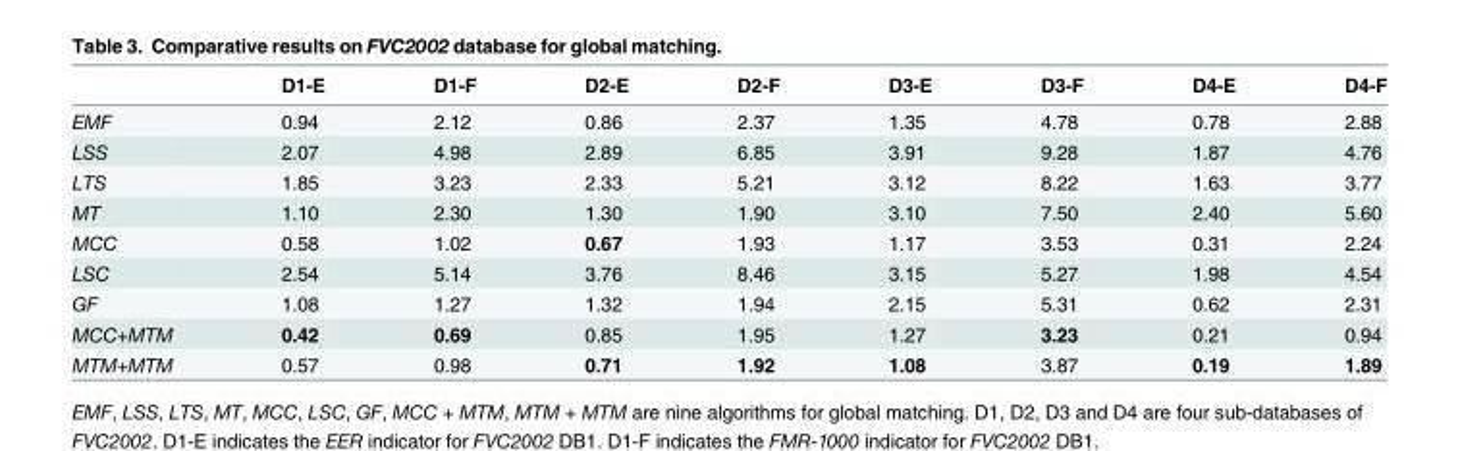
<table><thead><tr><td></td><td>D1-E</td><td>D1-F</td><td>D2-E</td><td>D2-F</td><td>D3-E</td><td>D3-F</td><td>D4-E</td><td>D4-F</td></tr></thead><tbody><tr><td>EMF</td><td>0.94</td><td>2.12</td><td>0.86</td><td>2.37</td><td>1.35</td><td>4.78</td><td>0.78</td><td>2.88</td></tr><tr><td>LSS</td><td>2.07</td><td>4.98</td><td>2.89</td><td>6.85</td><td>3.91</td><td>9.28</td><td>1.87</td><td>4.76</td></tr><tr><td>LTS</td><td>1.85</td><td>3.23</td><td>2.33</td><td>5.21</td><td>3.12</td><td>8.22</td><td>1.63</td><td>3.77</td></tr><tr><td>MT</td><td>1.10</td><td>2.30</td><td>1.30</td><td>1.90</td><td>3.10</td><td>7.50</td><td>2.40</td><td>5.60</td></tr><tr><td>MCC</td><td>0.58</td><td>1.02</td><td>0.67</td><td>1.93</td><td>1.17</td><td>3.53</td><td>0.31</td><td>2.24</td></tr><tr><td>LSC</td><td>2.54</td><td>5.14</td><td>3.76</td><td>8.46</td><td>3.15</td><td>5.27</td><td>1.98</td><td>4.54</td></tr><tr><td>GF</td><td>1.08</td><td>1.27</td><td>1.32</td><td>1.94</td><td>2.15</td><td>5.31</td><td>0.62</td><td>2.31</td></tr><tr><td>MCC+MTM</td><td>0.42</td><td>0.69</td><td>0.85</td><td>1.95</td><td>1.27</td><td>3.23</td><td>0.21</td><td>0.94</td></tr><tr><td>MTM+MTM</td><td>0.57</td><td>0.98</td><td>0.71</td><td>1.92</td><td>1.08</td><td>3.87</td><td>0.19</td><td>1.89</td></tr></tbody></table>